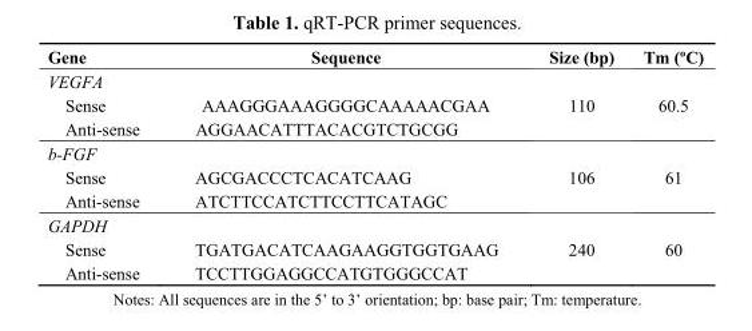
<table><thead><tr><td>Gene</td><td>Sequence</td><td>Size (bp)</td><td>Tm (ºC)</td></tr></thead><tbody><tr><td colspan="4">VEGFA</td></tr><tr><td>Sense</td><td>AAAGGGAAAGGGGCAAAAACGAA</td><td>110</td><td>60.5</td></tr><tr><td>Anti-sense</td><td>AGGAACATTTACACGTCTGCGG</td><td></td><td></td></tr><tr><td colspan="4">b-FGF</td></tr><tr><td>Sense</td><td>AGCGACCCTCACATCAAG</td><td>106</td><td>61</td></tr><tr><td>Anti-sense</td><td>ATCTTCCATCTTCCTTCATAGC</td><td></td><td></td></tr><tr><td colspan="4">GAPDH</td></tr><tr><td>Sense</td><td>TGATGACATCAAGAAGGTGGTGAAG</td><td>240</td><td>60</td></tr><tr><td>Anti-sense</td><td>TCCTTGGAGGCCATGTGGGCCAT</td><td></td><td></td></tr></tbody></table>